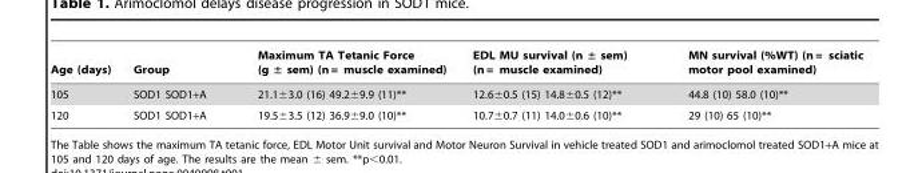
<table><thead><tr><td>Age (days)</td><td>Group</td><td>Maximum TA Tetanic Force (g ± sem) (n = muscle examined)</td><td>EDL MU survival (n ± sem) (n = muscle examined)</td><td>MN survival (%WT) (n = sciatic motor pool examined)</td></tr></thead><tbody><tr><td>105</td><td>SOD1 SOD1+A</td><td>21.1±3.0 (16) 49.2±9.9 (11)**</td><td>12.6±0.5 (15) 14.8±0.5 (12)**</td><td>44.8 (10) 58.0 (10)**</td></tr><tr><td>120</td><td>SOD1 SOD1+A</td><td>19.5±3.5 (12) 36.9±9.0 (10)**</td><td>10.7±0.7 (11) 14.0±0.6 (10)**</td><td>29 (10) 65 (10)**</td></tr></tbody></table>